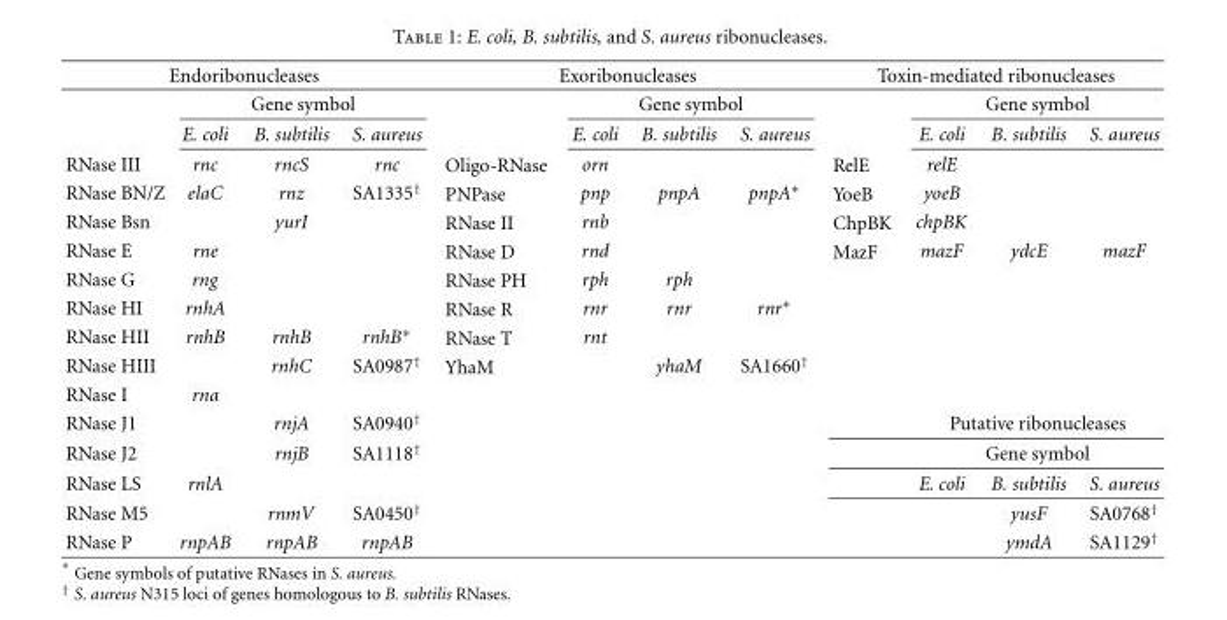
<table><thead><tr><td colspan="4">Endoribonucleases</td><td colspan="4">Exoribonucleases</td><td colspan="4">Toxin-mediated ribonucleases</td></tr><tr><td rowspan="2"></td><td colspan="3">Gene symbol</td><td rowspan="2"></td><td colspan="3">Gene symbol</td><td rowspan="2"></td><td colspan="3">Gene symbol</td></tr><tr><td>E. coli</td><td>B. subtilis</td><td>S. aureus</td><td>E. coli</td><td>B. subtilis</td><td>S. aureus</td><td>E. coli</td><td>B. subtilis</td><td>S. aureus</td></tr></thead><tbody><tr><td>RNase III</td><td>rnc</td><td>rncS</td><td>rnc</td><td>Oligo-RNase</td><td>orn</td><td></td><td></td><td>RelE</td><td>relE</td><td></td><td></td></tr><tr><td>RNase BN/Z</td><td>elaC</td><td>rnz</td><td>SA1335<sup>†</sup></td><td>PNPase</td><td>pnp</td><td>pnpA</td><td>pnpA∗</td><td>YoeB</td><td>yoeB</td><td></td><td></td></tr><tr><td>RNase Bsn</td><td></td><td>yurI</td><td></td><td>RNase II</td><td>rnb</td><td></td><td></td><td>ChpBK</td><td>chpBK</td><td></td><td></td></tr><tr><td>RNase E</td><td>rne</td><td></td><td></td><td>RNase D</td><td>rnd</td><td></td><td></td><td>MazF</td><td>mazF</td><td>ydcE</td><td>mazF</td></tr><tr><td>RNase G</td><td>rng</td><td></td><td></td><td>RNase PH</td><td>rph</td><td>rph</td><td></td><td></td><td></td><td></td><td></td></tr><tr><td>RNase HI</td><td>rnhA</td><td></td><td></td><td>RNase R</td><td>rnr</td><td>rnr</td><td>rnr∗</td><td></td><td></td><td></td><td></td></tr><tr><td>RNase HII</td><td>rnhB</td><td>rnhB</td><td>rnhB∗</td><td>RNase T</td><td>rnt</td><td></td><td></td><td></td><td></td><td></td><td></td></tr><tr><td>RNase HIII</td><td></td><td>rnhC</td><td>SA0987<sup>†</sup></td><td>YhaM</td><td></td><td>yhaM</td><td>SA1660<sup>†</sup></td><td></td><td></td><td></td><td></td></tr><tr><td>RNase I</td><td>rna</td><td></td><td></td><td></td><td></td><td></td><td></td><td></td><td></td><td></td><td></td></tr><tr><td>RNase J1</td><td></td><td>rnjA</td><td>SA0940<sup>†</sup></td><td></td><td></td><td></td><td></td><td></td><td colspan="3">Putative ribonucleases</td></tr><tr><td>RNase J2</td><td></td><td>rnjB</td><td>SA1118<sup>†</sup></td><td></td><td></td><td></td><td></td><td></td><td colspan="3">Gene symbol</td></tr><tr><td>RNase LS</td><td>rnlA</td><td></td><td></td><td></td><td></td><td></td><td></td><td></td><td>E. coli</td><td>B. subtilis</td><td>S. aureus</td></tr><tr><td>RNase M5</td><td></td><td>rnmV</td><td>SA0450<sup>†</sup></td><td></td><td></td><td></td><td></td><td></td><td></td><td>yusF</td><td>SA0768<sup>†</sup></td></tr><tr><td>RNase P</td><td>rnpAB</td><td>rnpAB</td><td>rnpAB</td><td></td><td></td><td></td><td></td><td></td><td></td><td>ymdA</td><td>SA1129<sup>†</sup></td></tr></tbody></table>